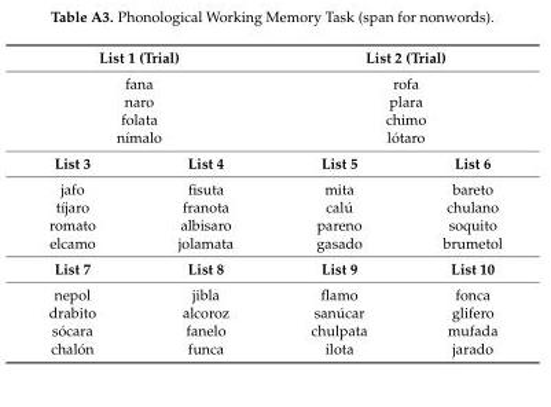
<table><tbody><tr><td colspan="2">List 1 (Trial)</td><td colspan="2">List 2 (Trial)</td></tr><tr><td colspan="2">fana</td><td colspan="2">rofa</td></tr><tr><td colspan="2">naro</td><td colspan="2">plara</td></tr><tr><td colspan="2">folata</td><td colspan="2">chimo</td></tr><tr><td colspan="2">nímalo</td><td colspan="2">lótaro</td></tr><tr><td>List 3</td><td>List 4</td><td>List 5</td><td>List 6</td></tr><tr><td>jafo</td><td>fisuta</td><td>mita</td><td>bareto</td></tr><tr><td>tíjaro</td><td>franota</td><td>calú</td><td>chulano</td></tr><tr><td>romato</td><td>albisaro</td><td>pareno</td><td>soquito</td></tr><tr><td>elcamo</td><td>jolamata</td><td>gasado</td><td>brumetol</td></tr><tr><td>List 7</td><td>List 8</td><td>List 9</td><td>List 10</td></tr><tr><td>nepol</td><td>jibla</td><td>flamo</td><td>fonca</td></tr><tr><td>drabito</td><td>alcoroz</td><td>sanúcar</td><td>glifero</td></tr><tr><td>sócara</td><td>fanelo</td><td>chulpata</td><td>mufada</td></tr><tr><td>chalón</td><td>funca</td><td>ilota</td><td>jarado</td></tr></tbody></table>